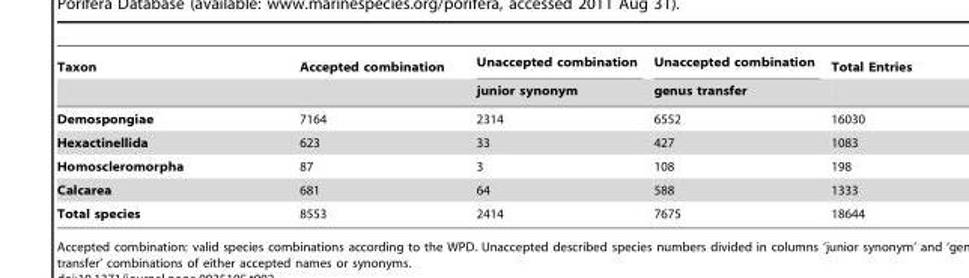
<table><thead><tr><td rowspan="2">Taxon</td><td rowspan="2">Accepted combination</td><td rowspan="2">Unaccepted combination junior synonym</td><td rowspan="2">Unaccepted combination genus transfer</td><td rowspan="2">Total Entries</td></tr><tr></tr></thead><tbody><tr><td>Demospongiae</td><td>7164</td><td>2314</td><td>6552</td><td>16030</td></tr><tr><td>Hexactinellida</td><td>623</td><td>33</td><td>427</td><td>1083</td></tr><tr><td>Homoscleromorpha</td><td>87</td><td>3</td><td>108</td><td>198</td></tr><tr><td>Calcarea</td><td>681</td><td>64</td><td>588</td><td>1333</td></tr><tr><td>Total species</td><td>8553</td><td>2414</td><td>7675</td><td>18644</td></tr></tbody></table>